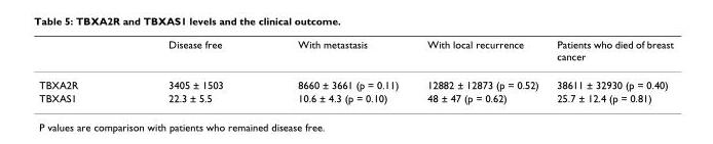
<table><thead><tr><td></td><td>Disease free</td><td>With metastasis</td><td>With local recurrence</td><td>Patients who died of breast cancer</td></tr></thead><tbody><tr><td>TBXA2R</td><td>3405 ± 1503</td><td>8660 ± 3661 (p = 0.11)</td><td>12882 ± 12873 (p = 0.52)</td><td>38611 ± 32930 (p = 0.40)</td></tr><tr><td>TBXAS1</td><td>22.3 ± 5.5</td><td>10.6 ± 4.3 (p = 0.10)</td><td>48 ± 47 (p = 0.62)</td><td>25.7 ± 12.4 (p = 0.81)</td></tr></tbody></table>